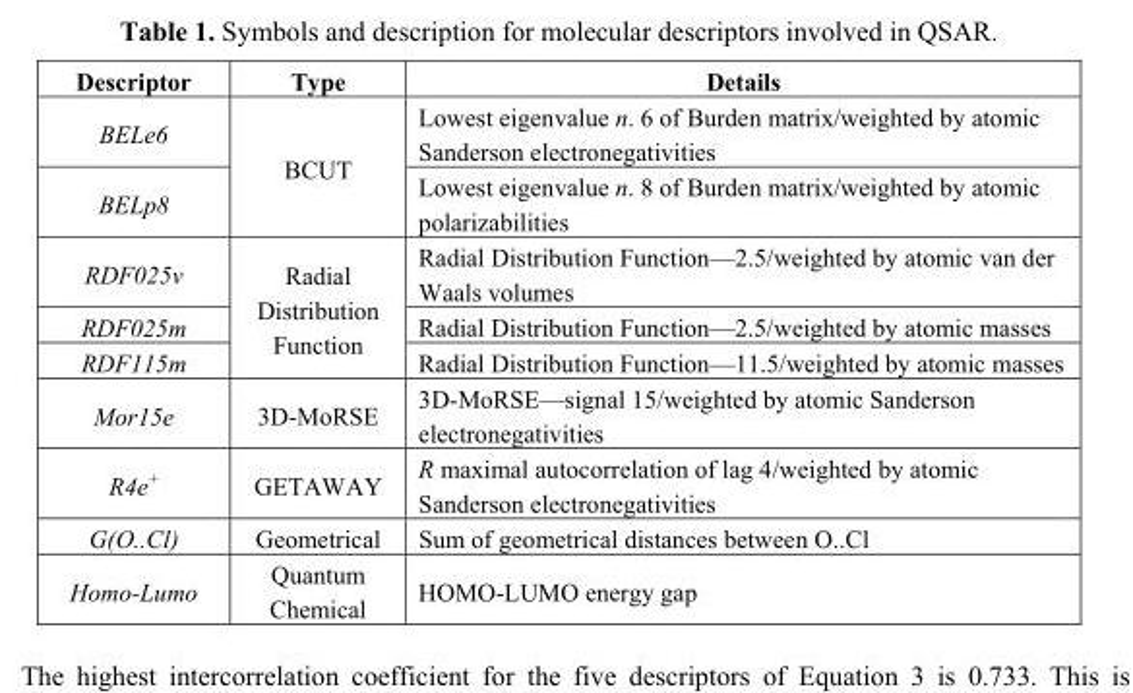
<table><thead><tr><td>Descriptor</td><td>Type</td><td>Details</td></tr></thead><tbody><tr><td>BELe6</td><td rowspan="2">BCUT</td><td>Lowest eigenvalue n. 6 of Burden matrix/weighted by atomic Sanderson electronegativities</td></tr><tr><td>BELp8</td><td>Lowest eigenvalue n. 8 of Burden matrix/weighted by atomic polarizabilities</td></tr><tr><td>RDF025v</td><td rowspan="3">Radial Distribution Function</td><td>Radial Distribution Function—2.5/weighted by atomic van der Waals volumes</td></tr><tr><td>RDF025m</td><td>Radial Distribution Function—2.5/weighted by atomic masses</td></tr><tr><td>RDF115m</td><td>Radial Distribution Function—11.5/weighted by atomic masses</td></tr><tr><td>Mor15e</td><td>3D-MoRSE</td><td>3D-MoRSE—signal 15/weighted by atomic Sanderson electronegativities</td></tr><tr><td>R4e<sup>+</sup></td><td>GETAWAY</td><td>R maximal autocorrelation of lag 4/weighted by atomic Sanderson electronegativities</td></tr><tr><td>G(O..Cl)</td><td>Geometrical</td><td>Sum of geometrical distances between O..Cl</td></tr><tr><td>Homo-Lumo</td><td>Quantum Chemical</td><td>HOMO-LUMO energy gap</td></tr></tbody></table>